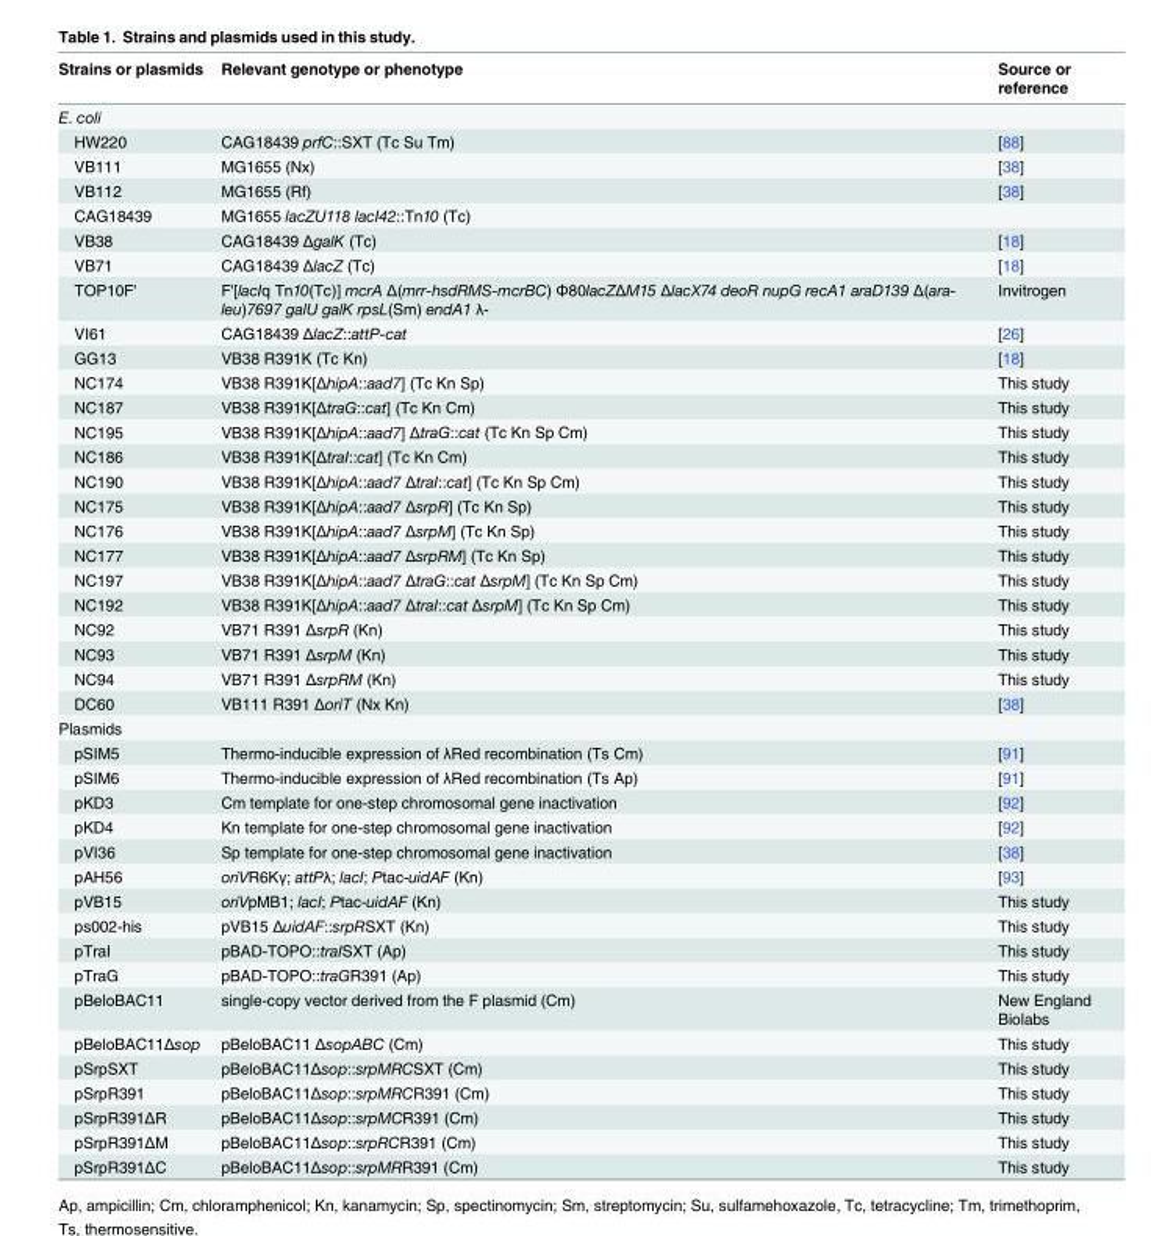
<table><thead><tr><td>Strains or plasmids</td><td>Relevant genotype or phenotype</td><td>Source or reference</td></tr></thead><tbody><tr><td colspan="3">E. coli</td></tr><tr><td>HW220</td><td>CAG18439 prfC::SXT (Tc Su Tm)</td><td>[88]</td></tr><tr><td>VB111</td><td>MG1655 (Nx)</td><td>[38]</td></tr><tr><td>VB112</td><td>MG1655 (Rf)</td><td>[38]</td></tr><tr><td>CAG18439</td><td>MG1655 lacZU118 lacI42::Tn10 (Tc)</td><td></td></tr><tr><td>VB38</td><td>CAG18439 ΔgalK (Tc)</td><td>[18]</td></tr><tr><td>VB71</td><td>CAG18439 ΔlacZ (Tc)</td><td>[18]</td></tr><tr><td>TOP10F&#x27;</td><td>F&#x27;[lacIq Tn10(Tc)] mcrA Δ(mrr-hsdRMS-mcrBC) Φ80lacZΔM15 ΔlacX74 deoR nupG recA1 araD139 Δ(ara- leu)7697 galU galK rpsL(Sm) endA1 λ-</td><td>Invitrogen</td></tr><tr><td>VI61</td><td>CAG18439 ΔlacZ::attP-cat</td><td>[26]</td></tr><tr><td>GG13</td><td>VB38 R391K (Tc Kn)</td><td>[18]</td></tr><tr><td>NC174</td><td>VB38 R391K[ΔhipA::aad7] (Tc Kn Sp)</td><td>This study</td></tr><tr><td>NC187</td><td>VB38 R391K[ΔtraG::cat] (Tc Kn Cm)</td><td>This study</td></tr><tr><td>NC195</td><td>VB38 R391K[ΔhipA::aad7] ΔtraG::cat (Tc Kn Sp Cm)</td><td>This study</td></tr><tr><td>NC186</td><td>VB38 R391K[ΔtraI::cat] (Tc Kn Cm)</td><td>This study</td></tr><tr><td>NC190</td><td>VB38 R391K[ΔhipA::aad7 ΔtraI::cat] (Tc Kn Sp Cm)</td><td>This study</td></tr><tr><td>NC175</td><td>VB38 R391K[ΔhipA::aad7 ΔsrpR] (Tc Kn Sp)</td><td>This study</td></tr><tr><td>NC176</td><td>VB38 R391K[ΔhipA::aad7 ΔsrpM] (Tc Kn Sp)</td><td>This study</td></tr><tr><td>NC177</td><td>VB38 R391K[ΔhipA::aad7 ΔsrpRM] (Tc Kn Sp)</td><td>This study</td></tr><tr><td>NC197</td><td>VB38 R391K[ΔhipA::aad7 ΔtraG::cat ΔsrpM] (Tc Kn Sp Cm)</td><td>This study</td></tr><tr><td>NC192</td><td>VB38 R391K[ΔhipA::aad7 ΔtraI::cat ΔsrpM] (Tc Kn Sp Cm)</td><td>This study</td></tr><tr><td>NC92</td><td>VB71 R391 ΔsrpR (Kn)</td><td>This study</td></tr><tr><td>NC93</td><td>VB71 R391 ΔsrpM (Kn)</td><td>This study</td></tr><tr><td>NC94</td><td>VB71 R391 ΔsrpRM (Kn)</td><td>This study</td></tr><tr><td>DC60</td><td>VB111 R391 ΔoriT (Nx Kn)</td><td>[38]</td></tr><tr><td colspan="3">Plasmids</td></tr><tr><td>pSIM5</td><td>Thermo-inducible expression of λRed recombination (Ts Cm)</td><td>[91]</td></tr><tr><td>pSIM6</td><td>Thermo-inducible expression of λRed recombination (Ts Ap)</td><td>[91]</td></tr><tr><td>pKD3</td><td>Cm template for one-step chromosomal gene inactivation</td><td>[92]</td></tr><tr><td>pKD4</td><td>Kn template for one-step chromosomal gene inactivation</td><td>[92]</td></tr><tr><td>pVI36</td><td>Sp template for one-step chromosomal gene inactivation</td><td>[38]</td></tr><tr><td>pAH56</td><td>oriVR6Kγ; attPλ; lacI; Ptac-uidAF (Kn)</td><td>[93]</td></tr><tr><td>pVB15</td><td>oriVpMB1; lacI; Ptac-uidAF (Kn)</td><td>This study</td></tr><tr><td>ps002-his</td><td>pVB15 ΔuidAF::srpRSXT (Kn)</td><td>This study</td></tr><tr><td>pTraI</td><td>pBAD-TOPO::traISXT (Ap)</td><td>This study</td></tr><tr><td>pTraG</td><td>pBAD-TOPO::traGR391 (Ap)</td><td>This study</td></tr><tr><td>pBeloBAC11</td><td>single-copy vector derived from the F plasmid (Cm)</td><td>New England Biolabs</td></tr><tr><td>pBeloBAC11Δsop</td><td>pBeloBAC11 ΔsopABC (Cm)</td><td>This study</td></tr><tr><td>pSrpSXT</td><td>pBeloBAC11Δsop::srpMRCSXT (Cm)</td><td>This study</td></tr><tr><td>pSrpR391</td><td>pBeloBAC11Δsop::srpMRCR391 (Cm)</td><td>This study</td></tr><tr><td>pSrpR391ΔR</td><td>pBeloBAC11Δsop::srpMCR391 (Cm)</td><td>This study</td></tr><tr><td>pSrpR391ΔM</td><td>pBeloBAC11Δsop::srpRCR391 (Cm)</td><td>This study</td></tr><tr><td>pSrpR391ΔC</td><td>pBeloBAC11Δsop::srpMRR391 (Cm)</td><td>This study</td></tr></tbody></table>